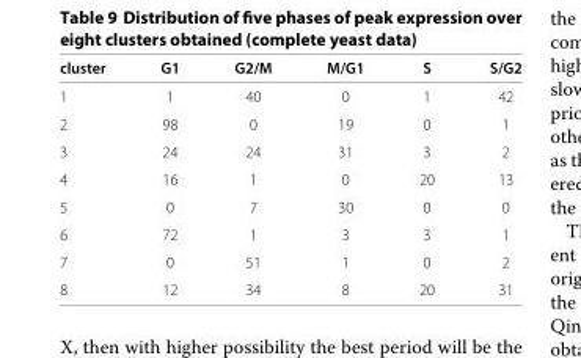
<table><thead><tr><td>cluster</td><td>G1</td><td>G2/M</td><td>M/G1</td><td>S</td><td>S/G2</td></tr></thead><tbody><tr><td>1</td><td>1</td><td>40</td><td>0</td><td>1</td><td>42</td></tr><tr><td>2</td><td>98</td><td>0</td><td>19</td><td>0</td><td>1</td></tr><tr><td>3</td><td>24</td><td>24</td><td>31</td><td>3</td><td>2</td></tr><tr><td>4</td><td>16</td><td>1</td><td>0</td><td>20</td><td>13</td></tr><tr><td>5</td><td>0</td><td>7</td><td>30</td><td>0</td><td>0</td></tr><tr><td>6</td><td>72</td><td>1</td><td>3</td><td>3</td><td>1</td></tr><tr><td>7</td><td>0</td><td>51</td><td>1</td><td>0</td><td>2</td></tr><tr><td>8</td><td>12</td><td>34</td><td>8</td><td>20</td><td>31</td></tr></tbody></table>